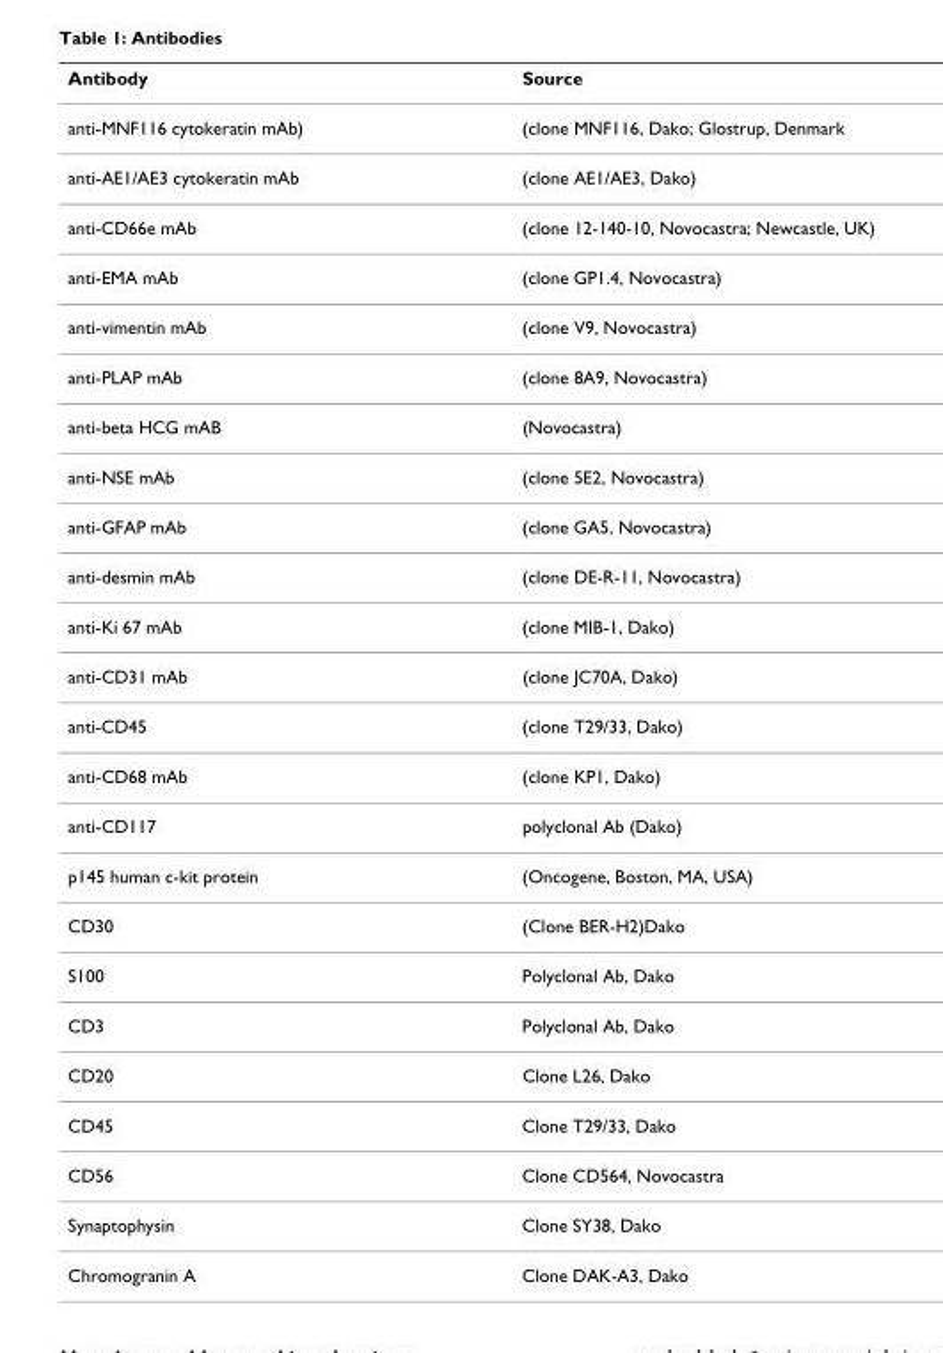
<table><thead><tr><td>Antibody</td><td>Source</td></tr></thead><tbody><tr><td>anti-MNF116 cytokeratin mAb)</td><td>(clone MNF116, Dako; Glostrup, Denmark</td></tr><tr><td>anti-AE1/AE3 cytokeratin mAb</td><td>(clone AE1/AE3, Dako)</td></tr><tr><td>anti-CD66e mAb</td><td>(clone 12-140-10, Novocastra; Newcastle, UK)</td></tr><tr><td>anti-EMA mAb</td><td>(clone GP1.4, Novocastra)</td></tr><tr><td>anti-vimentin mAb</td><td>(clone V9, Novocastra)</td></tr><tr><td>anti-PLAP mAb</td><td>(clone 8A9, Novocastra)</td></tr><tr><td>anti-beta HCG mAB</td><td>(Novocastra)</td></tr><tr><td>anti-NSE mAb</td><td>(clone 5E2, Novocastra)</td></tr><tr><td>anti-GFAP mAb</td><td>(clone GA5, Novocastra)</td></tr><tr><td>anti-desmin mAb</td><td>(clone DE-R-11, Novocastra)</td></tr><tr><td>anti-Ki 67 mAb</td><td>(clone MIB-1, Dako)</td></tr><tr><td>anti-CD31 mAb</td><td>(clone JC70A, Dako)</td></tr><tr><td>anti-CD45</td><td>(clone T29/33, Dako)</td></tr><tr><td>anti-CD68 mAb</td><td>(clone KP1, Dako)</td></tr><tr><td>anti-CD117</td><td>polyclonal Ab (Dako)</td></tr><tr><td>p145 human c-kit protein</td><td>(Oncogene, Boston, MA, USA)</td></tr><tr><td>CD30</td><td>(Clone BER-H2)Dako</td></tr><tr><td>S100</td><td>Polyclonal Ab, Dako</td></tr><tr><td>CD3</td><td>Polyclonal Ab, Dako</td></tr><tr><td>CD20</td><td>Clone L26, Dako</td></tr><tr><td>CD45</td><td>Clone T29/33, Dako</td></tr><tr><td>CD56</td><td>Clone CD564, Novocastra</td></tr><tr><td>Synaptophysin</td><td>Clone SY38, Dako</td></tr><tr><td>Chromogranin A</td><td>Clone DAK-A3, Dako</td></tr></tbody></table>